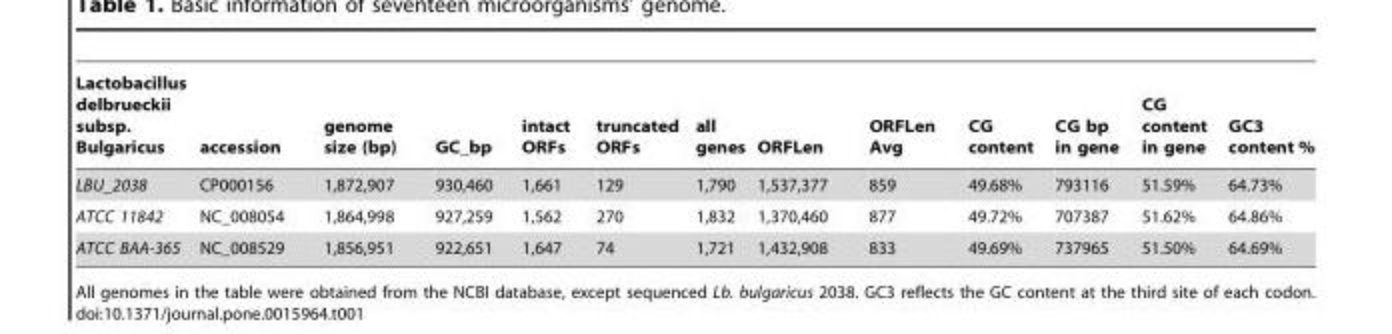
<table><thead><tr><td>Lactobacillus delbrueckii subsp. Bulgaricus</td><td>accession</td><td>genome size (bp)</td><td>GC_bp</td><td>intact ORFs</td><td>truncated ORFs</td><td>all genes</td><td>ORFLen</td><td>ORFLen Avg</td><td>CG content</td><td>CG bp in gene</td><td>CG content in gene</td><td>GC3 content %</td></tr></thead><tbody><tr><td>LBU_2038</td><td>CP000156</td><td>1,872,907</td><td>930,460</td><td>1,661</td><td>129</td><td>1,790</td><td>1,537,377</td><td>859</td><td>49.68%</td><td>793116</td><td>51.59%</td><td>64.73%</td></tr><tr><td>ATCC 11842</td><td>NC_008054</td><td>1,864,998</td><td>927,259</td><td>1,562</td><td>270</td><td>1,832</td><td>1,370,460</td><td>877</td><td>49.72%</td><td>707387</td><td>51.62%</td><td>64.86%</td></tr><tr><td>ATCC BAA-365</td><td>NC_008529</td><td>1,856,951</td><td>922,651</td><td>1,647</td><td>74</td><td>1,721</td><td>1,432,908</td><td>833</td><td>49.69%</td><td>737965</td><td>51.50%</td><td>64.69%</td></tr></tbody></table>